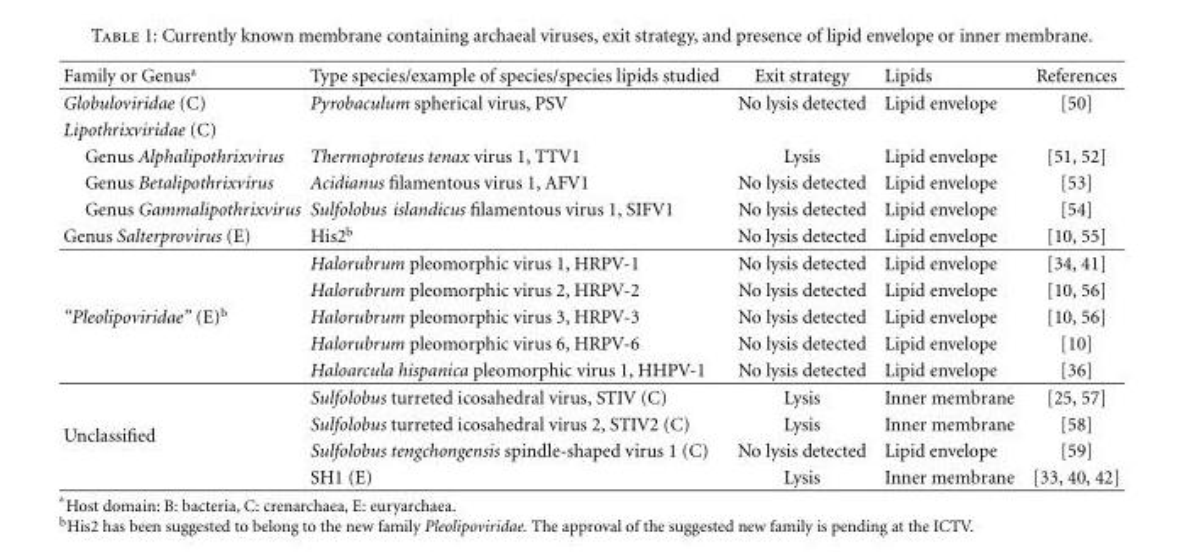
<table><thead><tr><td>Family or Genus<sup>a</sup></td><td>Type species/example of species/species lipids studied</td><td>Exit strategy</td><td>Lipids</td><td>References</td></tr></thead><tbody><tr><td>Globuloviridae (C)</td><td>Pyrobaculum spherical virus, PSV</td><td>No lysis detected</td><td>Lipid envelope</td><td>[50]</td></tr><tr><td colspan="5">Lipothrixviridae (C)</td></tr><tr><td>Genus Alphalipothrixvirus</td><td>Thermoproteus tenax virus 1, TTV1</td><td>Lysis</td><td>Lipid envelope</td><td>[51, 52]</td></tr><tr><td>Genus Betalipothrixvirus</td><td>Acidianus filamentous virus 1, AFV1</td><td>No lysis detected</td><td>Lipid envelope</td><td>[53]</td></tr><tr><td>Genus Gammalipothrixvirus</td><td>Sulfolobus islandicus filamentous virus 1, SIFV1</td><td>No lysis detected</td><td>Lipid envelope</td><td>[54]</td></tr><tr><td rowspan="3">Genus Salterprovirus (E)</td><td>His2<sup>b</sup></td><td>No lysis detected</td><td>Lipid envelope</td><td>[10, 55]</td></tr><tr><td>Halorubrum pleomorphic virus 1, HRPV-1</td><td>No lysis detected</td><td>Lipid envelope</td><td>[34, 41]</td></tr><tr><td>Halorubrum pleomorphic virus 2, HRPV-2</td><td>No lysis detected</td><td>Lipid envelope</td><td>[10, 56]</td></tr><tr><td rowspan="4">“Pleolipoviridae” (E)<sup>b</sup></td><td>Halorubrum pleomorphic virus 3, HRPV-3</td><td>No lysis detected</td><td>Lipid envelope</td><td>[10, 56]</td></tr><tr><td>Halorubrum pleomorphic virus 6, HRPV-6</td><td>No lysis detected</td><td>Lipid envelope</td><td>[10]</td></tr><tr><td>Haloarcula hispanica pleomorphic virus 1, HHPV-1</td><td>No lysis detected</td><td>Lipid envelope</td><td>[36]</td></tr><tr><td>Sulfolobus turreted icosahedral virus, STIV (C)</td><td>Lysis</td><td>Inner membrane</td><td>[25, 57]</td></tr><tr><td rowspan="3">Unclassified</td><td>Sulfolobus turreted icosahedral virus 2, STIV2 (C)</td><td>Lysis</td><td>Inner membrane</td><td>[58]</td></tr><tr><td>Sulfolobus tengchongensis spindle-shaped virus 1 (C)</td><td>No lysis detected</td><td>Lipid envelope</td><td>[59]</td></tr><tr><td>SH1 (E)</td><td>Lysis</td><td>Inner membrane</td><td>[33, 40, 42]</td></tr></tbody></table>